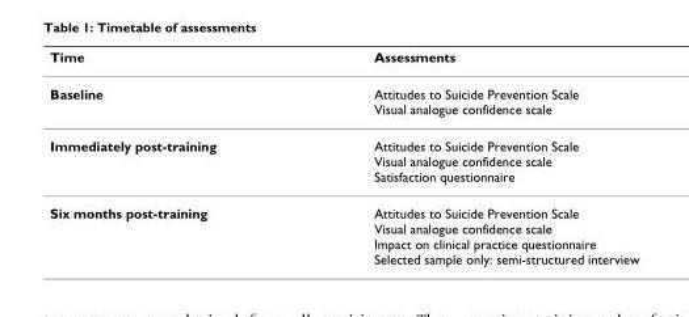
<table><thead><tr><td>Time</td><td>Assessments</td></tr></thead><tbody><tr><td>Baseline</td><td>Attitudes to Suicide Prevention Scale Visual analogue confidence scale</td></tr><tr><td>Immediately post-training</td><td>Attitudes to Suicide Prevention Scale Visual analogue confidence scale Satisfaction questionnaire</td></tr><tr><td>Six months post-training</td><td>Attitudes to Suicide Prevention Scale Visual analogue confidence scale Impact on clinical practice questionnaire Selected sample only: semi-structured interview</td></tr></tbody></table>